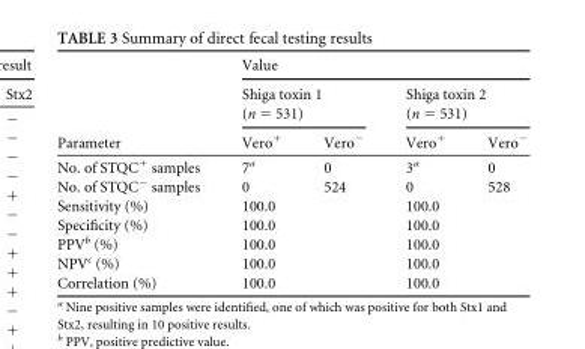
<table><thead><tr><td rowspan="3">Parameter</td><td colspan="4">Value</td></tr><tr><td colspan="2">Shiga toxin 1 (n = 531)</td><td colspan="2">Shiga toxin 2 (n = 531)</td></tr><tr><td>Vero<sup>+</sup></td><td>Vero<sup>−</sup></td><td>Vero<sup>+</sup></td><td>Vero<sup>−</sup></td></tr></thead><tbody><tr><td>No. of STQC<sup>+</sup> samples</td><td>7<sup>a</sup></td><td>0</td><td>3<sup>a</sup></td><td>0</td></tr><tr><td>No. of STQC<sup>−</sup> samples</td><td>0</td><td>524</td><td>0</td><td>528</td></tr><tr><td>Sensitivity (%)</td><td>100.0</td><td></td><td>100.0</td><td></td></tr><tr><td>Specificity (%)</td><td>100.0</td><td></td><td>100.0</td><td></td></tr><tr><td>PPV<sup>b</sup> (%)</td><td>100.0</td><td></td><td>100.0</td><td></td></tr><tr><td>NPV<sup>c</sup> (%)</td><td>100.0</td><td></td><td>100.0</td><td></td></tr><tr><td>Correlation (%)</td><td>100.0</td><td></td><td>100.0</td><td></td></tr></tbody></table>